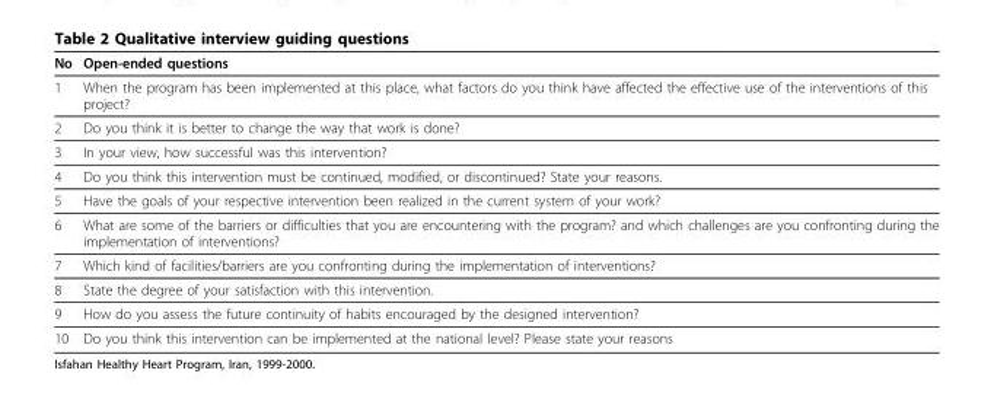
<table><thead><tr><td>No</td><td>Open-ended questions</td></tr></thead><tbody><tr><td>1</td><td>When the program has been implemented at this place, what factors do you think have affected the effective use of the interventions of this project?</td></tr><tr><td>2</td><td>Do you think it is better to change the way that work is done?</td></tr><tr><td>3</td><td>In your view, how successful was this intervention?</td></tr><tr><td>4</td><td>Do you think this intervention must be continued, modified, or discontinued? State your reasons.</td></tr><tr><td>5</td><td>Have the goals of your respective intervention been realized in the current system of your work?</td></tr><tr><td>6</td><td>What are some of the barriers or difficulties that you are encountering with the program? and which challenges are you confronting during the implementation of interventions?</td></tr><tr><td>7</td><td>Which kind of facilities/barriers are you confronting during the implementation of interventions?</td></tr><tr><td>8</td><td>State the degree of your satisfaction with this intervention.</td></tr><tr><td>9</td><td>How do you assess the future continuity of habits encouraged by the designed intervention?</td></tr><tr><td>10</td><td>Do you think this intervention can be implemented at the national level? Please state your reasons</td></tr></tbody></table>